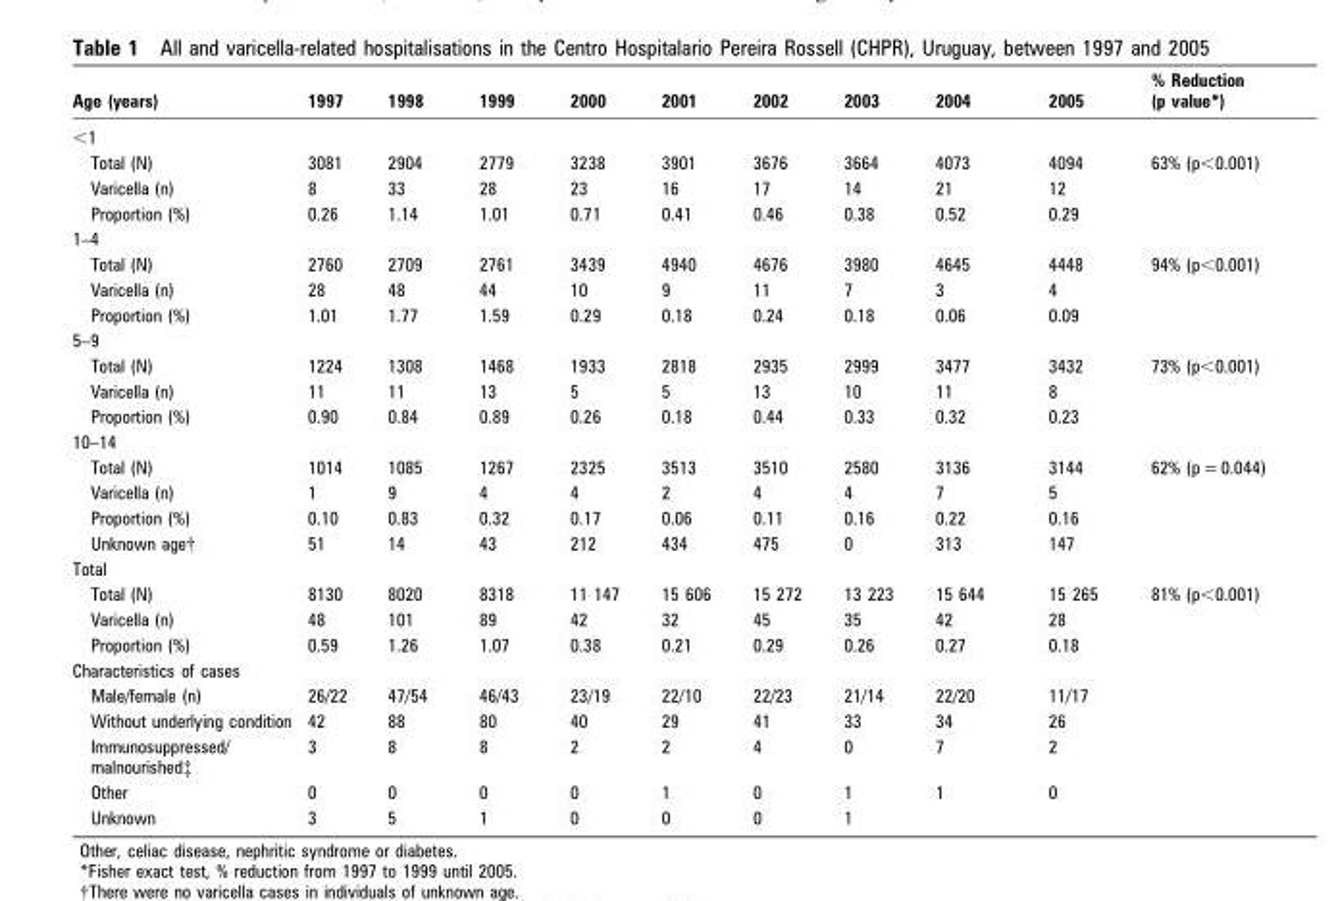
<table><thead><tr><td>Age (years)</td><td>1997</td><td>1998</td><td>1999</td><td>2000</td><td>2001</td><td>2002</td><td>2003</td><td>2004</td><td>2005</td><td>% Reduction (p value*)</td></tr></thead><tbody><tr><td colspan="11">&lt;1</td></tr><tr><td>Total (N)</td><td>3081</td><td>2904</td><td>2779</td><td>3238</td><td>3901</td><td>3676</td><td>3664</td><td>4073</td><td>4094</td><td>63% (p&lt;0.001)</td></tr><tr><td>Varicella (n)</td><td>8</td><td>33</td><td>28</td><td>23</td><td>16</td><td>17</td><td>14</td><td>21</td><td>12</td><td></td></tr><tr><td>Proportion (%)</td><td>0.26</td><td>1.14</td><td>1.01</td><td>0.71</td><td>0.41</td><td>0.46</td><td>0.38</td><td>0.52</td><td>0.29</td><td></td></tr><tr><td colspan="11">1–4</td></tr><tr><td>Total (N)</td><td>2760</td><td>2709</td><td>2761</td><td>3439</td><td>4940</td><td>4676</td><td>3980</td><td>4645</td><td>4448</td><td>94% (p&lt;0.001)</td></tr><tr><td>Varicella (n)</td><td>28</td><td>48</td><td>44</td><td>10</td><td>9</td><td>11</td><td>7</td><td>3</td><td>4</td><td></td></tr><tr><td>Proportion (%)</td><td>1.01</td><td>1.77</td><td>1.59</td><td>0.29</td><td>0.18</td><td>0.24</td><td>0.18</td><td>0.06</td><td>0.09</td><td></td></tr><tr><td colspan="11">5–9</td></tr><tr><td>Total (N)</td><td>1224</td><td>1308</td><td>1468</td><td>1933</td><td>2818</td><td>2935</td><td>2999</td><td>3477</td><td>3432</td><td>73% (p&lt;0.001)</td></tr><tr><td>Varicella (n)</td><td>11</td><td>11</td><td>13</td><td>5</td><td>5</td><td>13</td><td>10</td><td>11</td><td>8</td><td></td></tr><tr><td>Proportion (%)</td><td>0.90</td><td>0.84</td><td>0.89</td><td>0.26</td><td>0.18</td><td>0.44</td><td>0.33</td><td>0.32</td><td>0.23</td><td></td></tr><tr><td colspan="11">10–14</td></tr><tr><td>Total (N)</td><td>1014</td><td>1085</td><td>1267</td><td>2325</td><td>3513</td><td>3510</td><td>2580</td><td>3136</td><td>3144</td><td>62% (p = 0.044)</td></tr><tr><td>Varicella (n)</td><td>1</td><td>9</td><td>4</td><td>4</td><td>2</td><td>4</td><td>4</td><td>7</td><td>5</td><td></td></tr><tr><td>Proportion (%)</td><td>0.10</td><td>0.83</td><td>0.32</td><td>0.17</td><td>0.06</td><td>0.11</td><td>0.16</td><td>0.22</td><td>0.16</td><td></td></tr><tr><td>Unknown age†</td><td>51</td><td>14</td><td>43</td><td>212</td><td>434</td><td>475</td><td>0</td><td>313</td><td>147</td><td></td></tr><tr><td colspan="11">Total</td></tr><tr><td>Total (N)</td><td>8130</td><td>8020</td><td>8318</td><td>11 147</td><td>15 606</td><td>15 272</td><td>13 223</td><td>15 644</td><td>15 265</td><td>81% (p&lt;0.001)</td></tr><tr><td>Varicella (n)</td><td>48</td><td>101</td><td>89</td><td>42</td><td>32</td><td>45</td><td>35</td><td>42</td><td>28</td><td></td></tr><tr><td>Proportion (%)</td><td>0.59</td><td>1.26</td><td>1.07</td><td>0.38</td><td>0.21</td><td>0.29</td><td>0.26</td><td>0.27</td><td>0.18</td><td></td></tr><tr><td colspan="11">Characteristics of cases</td></tr><tr><td>Male/female (n)</td><td>26/22</td><td>47/54</td><td>46/43</td><td>23/19</td><td>22/10</td><td>22/23</td><td>21/14</td><td>22/20</td><td>11/17</td><td></td></tr><tr><td>Without underlying condition</td><td>42</td><td>88</td><td>80</td><td>40</td><td>29</td><td>41</td><td>33</td><td>34</td><td>26</td><td></td></tr><tr><td>Immunosuppressed/ malnourished‡</td><td>3</td><td>8</td><td>8</td><td>2</td><td>2</td><td>4</td><td>0</td><td>7</td><td>2</td><td></td></tr><tr><td>Other</td><td>0</td><td>0</td><td>0</td><td>0</td><td>1</td><td>0</td><td>1</td><td>1</td><td>0</td><td></td></tr><tr><td>Unknown</td><td>3</td><td>5</td><td>1</td><td>0</td><td>0</td><td>0</td><td>1</td><td></td><td></td><td></td></tr></tbody></table>